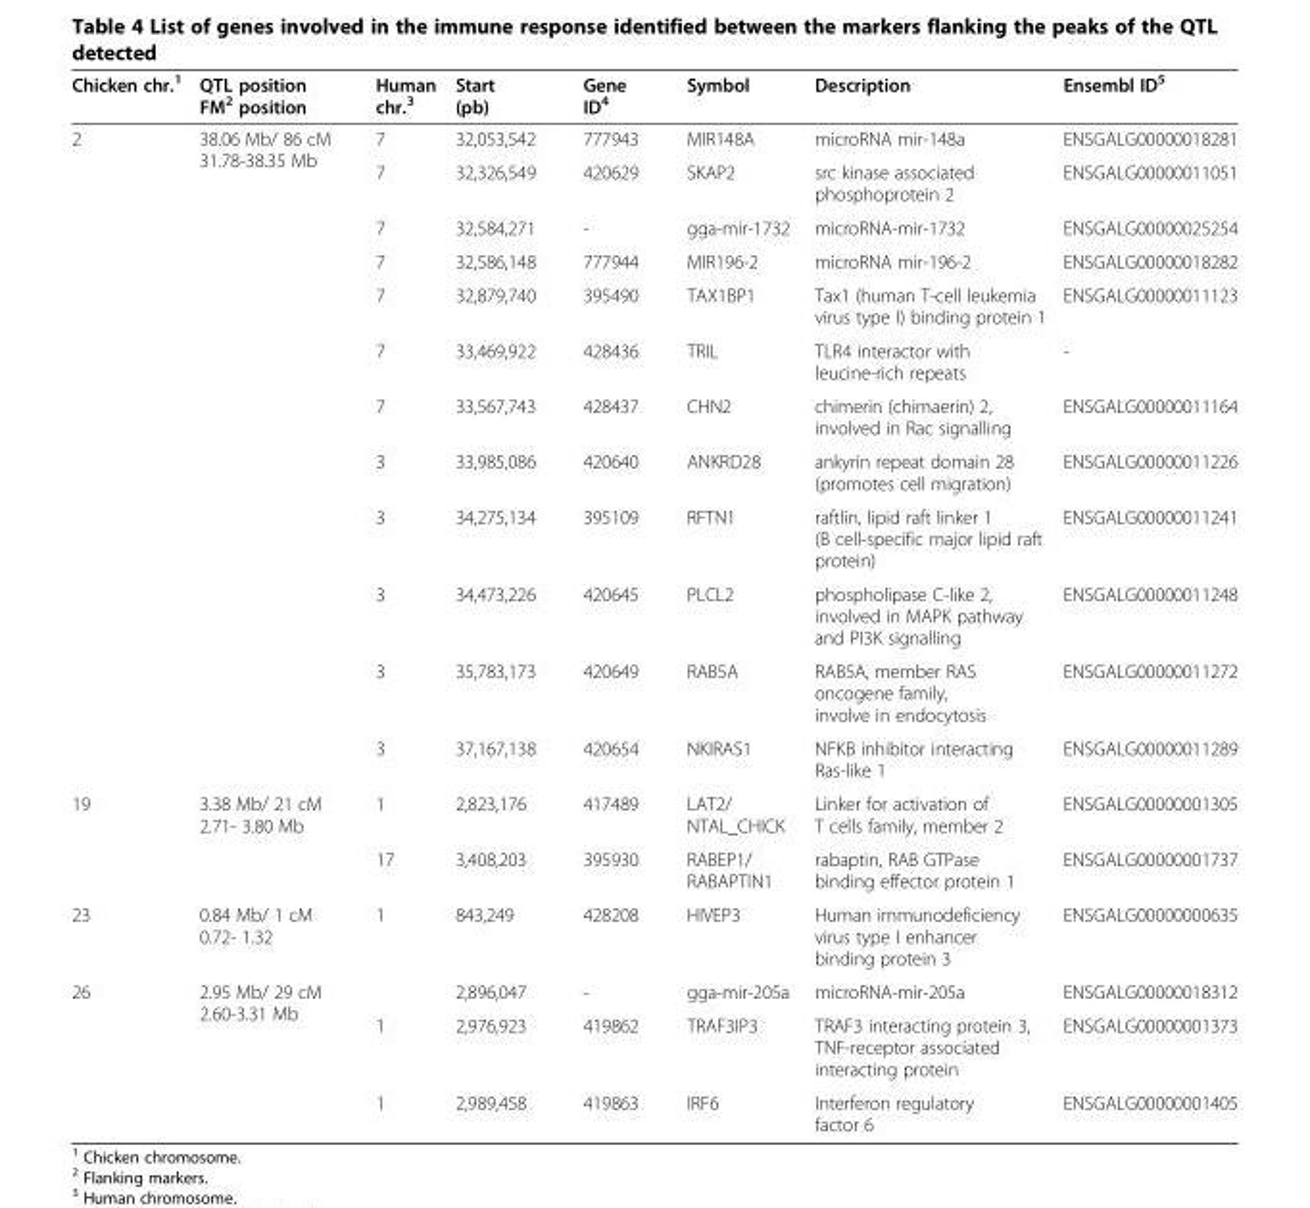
<table><thead><tr><td>Chicken chr.<sup>1</sup></td><td>QTL position FM<sup>2</sup> position</td><td>Human chr.<sup>3</sup></td><td>Start (pb)</td><td>Gene ID<sup>4</sup></td><td>Symbol</td><td>Description</td><td>Ensembl ID<sup>5</sup></td></tr></thead><tbody><tr><td rowspan="12">2</td><td rowspan="12">38.06 Mb/ 86 cM 31.78-38.35 Mb</td><td>7</td><td>32,053,542</td><td>777943</td><td>MIR148A</td><td>microRNA mir-148a</td><td>ENSGALG00000018281</td></tr><tr><td>7</td><td>32,326,549</td><td>420629</td><td>SKAP2</td><td>src kinase associated phosphoprotein 2</td><td>ENSGALG00000011051</td></tr><tr><td>7</td><td>32,584,271</td><td>-</td><td>gga-mir-1732</td><td>microRNA-mir-1732</td><td>ENSGALG00000025254</td></tr><tr><td>7</td><td>32,586,148</td><td>777944</td><td>MIR196-2</td><td>microRNA mir-196-2</td><td>ENSGALG00000018282</td></tr><tr><td>7</td><td>32,879,740</td><td>395490</td><td>TAX1BP1</td><td>Tax1 (human T-cell leukemia virus type I) binding protein 1</td><td>ENSGALG00000011123</td></tr><tr><td>7</td><td>33,469,922</td><td>428436</td><td>TRIL</td><td>TLR4 interactor with leucine-rich repeats</td><td>-</td></tr><tr><td>7</td><td>33,567,743</td><td>428437</td><td>CHN2</td><td>chimerin (chimaerin) 2, involved in Rac signalling</td><td>ENSGALG00000011164</td></tr><tr><td>3</td><td>33,985,086</td><td>420640</td><td>ANKRD28</td><td>ankyrin repeat domain 28 (promotes cell migration)</td><td>ENSGALG00000011226</td></tr><tr><td>3</td><td>34,275,134</td><td>395109</td><td>RFTN1</td><td>raftlin, lipid raft linker 1 (B cell-specific major lipid raft protein)</td><td>ENSGALG00000011241</td></tr><tr><td>3</td><td>34,473,226</td><td>420645</td><td>PLCL2</td><td>phospholipase C-like 2, involved in MAPK pathway and PI3K signalling</td><td>ENSGALG00000011248</td></tr><tr><td>3</td><td>35,783,173</td><td>420649</td><td>RAB5A</td><td>RAB5A, member RAS oncogene family, involve in endocytosis</td><td>ENSGALG00000011272</td></tr><tr><td>3</td><td>37,167,138</td><td>420654</td><td>NKIRAS1</td><td>NFKB inhibitor interacting Ras-like 1</td><td>ENSGALG00000011289</td></tr><tr><td rowspan="2">19</td><td rowspan="2">3.38 Mb/ 21 cM 2.71- 3.80 Mb</td><td>1</td><td>2,823,176</td><td>417489</td><td>LAT2/ NTAL_CHICK</td><td>Linker for activation of T cells family, member 2</td><td>ENSGALG00000001305</td></tr><tr><td>17</td><td>3,408,203</td><td>395930</td><td>RABEP1/ RABAPTIN1</td><td>rabaptin, RAB GTPase binding effector protein 1</td><td>ENSGALG00000001737</td></tr><tr><td>23</td><td>0.84 Mb/ 1 cM 0.72- 1.32</td><td>1</td><td>843,249</td><td>428208</td><td>HIVEP3</td><td>Human immunodeficiency virus type I enhancer binding protein 3</td><td>ENSGALG00000000635</td></tr><tr><td rowspan="3">26</td><td rowspan="3">2.95 Mb/ 29 cM 2.60-3.31 Mb</td><td></td><td>2,896,047</td><td>-</td><td>gga-mir-205a</td><td>microRNA-mir-205a</td><td>ENSGALG00000018312</td></tr><tr><td>1</td><td>2,976,923</td><td>419862</td><td>TRAF3IP3</td><td>TRAF3 interacting protein 3, TNF-receptor associated interacting protein</td><td>ENSGALG00000001373</td></tr><tr><td>1</td><td>2,989,458</td><td>419863</td><td>IRF6</td><td>Interferon regulatory factor 6</td><td>ENSGALG00000001405</td></tr></tbody></table>